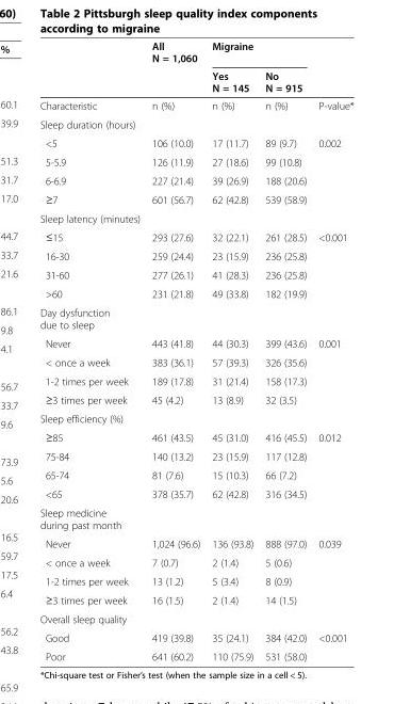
<table><thead><tr><td rowspan="2"></td><td rowspan="2">All N = 1,060</td><td colspan="2">Migraine</td><td rowspan="2"></td></tr><tr><td>Yes N = 145</td><td>No N = 915</td></tr></thead><tbody><tr><td>Characteristic</td><td>n (%)</td><td>n (%)</td><td>n (%)</td><td>P-value*</td></tr><tr><td colspan="5">Sleep duration (hours)</td></tr><tr><td>&lt;5</td><td>106 (10.0)</td><td>17 (11.7)</td><td>89 (9.7)</td><td>0.002</td></tr><tr><td>5-5.9</td><td>126 (11.9)</td><td>27 (18.6)</td><td>99 (10.8)</td><td></td></tr><tr><td>6-6.9</td><td>227 (21.4)</td><td>39 (26.9)</td><td>188 (20.6)</td><td></td></tr><tr><td>≥7</td><td>601 (56.7)</td><td>62 (42.8)</td><td>539 (58.9)</td><td></td></tr><tr><td colspan="5">Sleep latency (minutes)</td></tr><tr><td>≤15</td><td>293 (27.6)</td><td>32 (22.1)</td><td>261 (28.5)</td><td>&lt;0.001</td></tr><tr><td>16-30</td><td>259 (24.4)</td><td>23 (15.9)</td><td>236 (25.8)</td><td></td></tr><tr><td>31-60</td><td>277 (26.1)</td><td>41 (28.3)</td><td>236 (25.8)</td><td></td></tr><tr><td>&gt;60</td><td>231 (21.8)</td><td>49 (33.8)</td><td>182 (19.9)</td><td></td></tr><tr><td colspan="5">Day dysfunction due to sleep</td></tr><tr><td>Never</td><td>443 (41.8)</td><td>44 (30.3)</td><td>399 (43.6)</td><td>0.001</td></tr><tr><td>&lt; once a week</td><td>383 (36.1)</td><td>57 (39.3)</td><td>326 (35.6)</td><td></td></tr><tr><td>1-2 times per week</td><td>189 (17.8)</td><td>31 (21.4)</td><td>158 (17.3)</td><td></td></tr><tr><td>≥3 times per week</td><td>45 (4.2)</td><td>13 (8.9)</td><td>32 (3.5)</td><td></td></tr><tr><td colspan="5">Sleep efficiency (%)</td></tr><tr><td>≥85</td><td>461 (43.5)</td><td>45 (31.0)</td><td>416 (45.5)</td><td>0.012</td></tr><tr><td>75-84</td><td>140 (13.2)</td><td>23 (15.9)</td><td>117 (12.8)</td><td></td></tr><tr><td>65-74</td><td>81 (7.6)</td><td>15 (10.3)</td><td>66 (7.2)</td><td></td></tr><tr><td>&lt;65</td><td>378 (35.7)</td><td>62 (42.8)</td><td>316 (34.5)</td><td></td></tr><tr><td colspan="5">Sleep medicine during past month</td></tr><tr><td>Never</td><td>1,024 (96.6)</td><td>136 (93.8)</td><td>888 (97.0)</td><td>0.039</td></tr><tr><td>&lt; once a week</td><td>7 (0.7)</td><td>2 (1.4)</td><td>5 (0.6)</td><td></td></tr><tr><td>1-2 times per week</td><td>13 (1.2)</td><td>5 (3.4)</td><td>8 (0.9)</td><td></td></tr><tr><td>≥3 times per week</td><td>16 (1.5)</td><td>2 (1.4)</td><td>14 (1.5)</td><td></td></tr><tr><td colspan="5">Overall sleep quality</td></tr><tr><td>Good</td><td>419 (39.8)</td><td>35 (24.1)</td><td>384 (42.0)</td><td>&lt;0.001</td></tr><tr><td>Poor</td><td>641 (60.2)</td><td>110 (75.9)</td><td>531 (58.0)</td><td></td></tr></tbody></table>